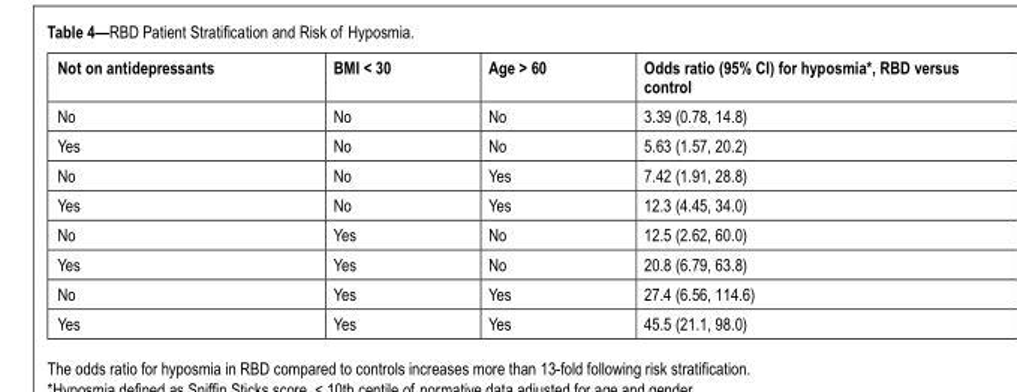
<table><thead><tr><td>Not on antidepressants</td><td>BMI &lt; 30</td><td>Age &gt; 60</td><td>Odds ratio (95% CI) for hyposmia*, RBD versus control</td></tr></thead><tbody><tr><td>No</td><td>No</td><td>No</td><td>3.39 (0.78, 14.8)</td></tr><tr><td>Yes</td><td>No</td><td>No</td><td>5.63 (1.57, 20.2)</td></tr><tr><td>No</td><td>No</td><td>Yes</td><td>7.42 (1.91, 28.8)</td></tr><tr><td>Yes</td><td>No</td><td>Yes</td><td>12.3 (4.45, 34.0)</td></tr><tr><td>No</td><td>Yes</td><td>No</td><td>12.5 (2.62, 60.0)</td></tr><tr><td>Yes</td><td>Yes</td><td>No</td><td>20.8 (6.79, 63.8)</td></tr><tr><td>No</td><td>Yes</td><td>Yes</td><td>27.4 (6.56, 114.6)</td></tr><tr><td>Yes</td><td>Yes</td><td>Yes</td><td>45.5 (21.1, 98.0)</td></tr></tbody></table>